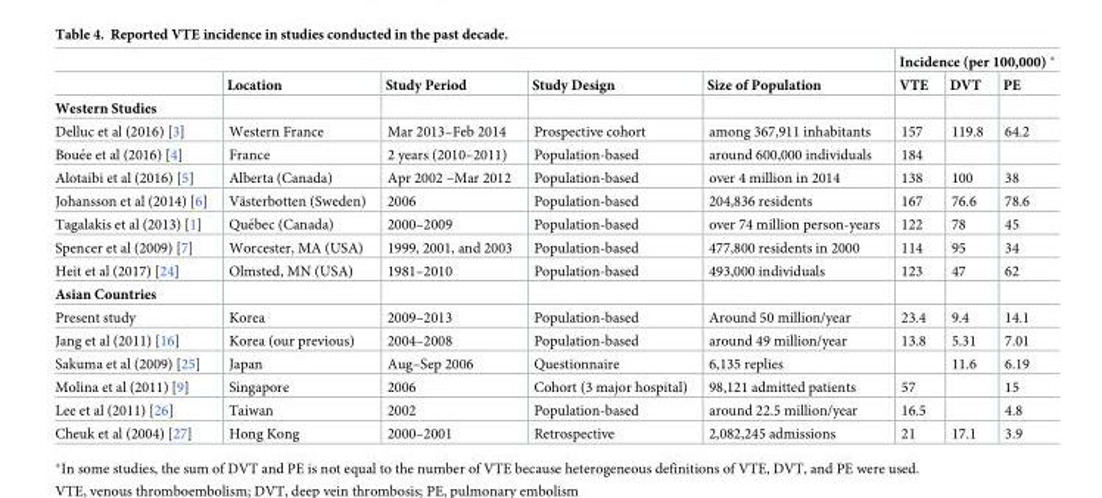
<table><thead><tr><td rowspan="2"></td><td rowspan="2">Location</td><td rowspan="2">Study Period</td><td rowspan="2">Study Design</td><td rowspan="2">Size of Population</td><td colspan="3">Incidence (per 100,000)</td></tr><tr><td>VTE</td><td>DVT</td><td>PE</td></tr></thead><tbody><tr><td colspan="8">Western Studies</td></tr><tr><td>Delluc et al (2016) [3]</td><td>Western France</td><td>Mar 2013–Feb 2014</td><td>Prospective cohort</td><td>among 367,911 inhabitants</td><td>157</td><td>119.8</td><td>64.2</td></tr><tr><td>Boue´e et al (2016) [4]</td><td>France</td><td>2 years (2010–2011)</td><td>Population-based</td><td>around 600,000 individuals</td><td>184</td><td></td><td></td></tr><tr><td>Alotaibi et al (2016) [5]</td><td>Alberta (Canada)</td><td>Apr 2002 –Mar 2012</td><td>Population-based</td><td>over 4 million in 2014</td><td>138</td><td>100</td><td>38</td></tr><tr><td>Johansson et al (2014) [6]</td><td>Va¨sterbotten (Sweden)</td><td>2006</td><td>Population-based</td><td>204,836 residents</td><td>167</td><td>76.6</td><td>78.6</td></tr><tr><td>Tagalakis et al (2013) [1]</td><td>Que´bec (Canada)</td><td>2000–2009</td><td>Population-based</td><td>over 74 million person-years</td><td>122</td><td>78</td><td>45</td></tr><tr><td>Spencer et al (2009) [7]</td><td>Worcester, MA (USA)</td><td>1999, 2001, and 2003</td><td>Population-based</td><td>477,800 residents in 2000</td><td>114</td><td>95</td><td>34</td></tr><tr><td>Heit et al (2017) [24]</td><td>Olmsted, MN (USA)</td><td>1981–2010</td><td>Population-based</td><td>493,000 individuals</td><td>123</td><td>47</td><td>62</td></tr><tr><td colspan="8">Asian Countries</td></tr><tr><td>Present study</td><td>Korea</td><td>2009–2013</td><td>Population-based</td><td>Around 50 million/year</td><td>23.4</td><td>9.4</td><td>14.1</td></tr><tr><td>Jang et al (2011) [16]</td><td>Korea (our previous)</td><td>2004–2008</td><td>Population-based</td><td>around 49 million/year</td><td>13.8</td><td>5.31</td><td>7.01</td></tr><tr><td>Sakuma et al (2009) [25]</td><td>Japan</td><td>Aug–Sep 2006</td><td>Questionnaire</td><td>6,135 replies</td><td></td><td>11.6</td><td>6.19</td></tr><tr><td>Molina et al (2011) [9]</td><td>Singapore</td><td>2006</td><td>Cohort (3 major hospital)</td><td>98,121 admitted patients</td><td>57</td><td></td><td>15</td></tr><tr><td>Lee et al (2011) [26]</td><td>Taiwan</td><td>2002</td><td>Population-based</td><td>around 22.5 million/year</td><td>16.5</td><td></td><td>4.8</td></tr><tr><td>Cheuk et al (2004) [27]</td><td>Hong Kong</td><td>2000–2001</td><td>Retrospective</td><td>2,082,245 admissions</td><td>21</td><td>17.1</td><td>3.9</td></tr></tbody></table>